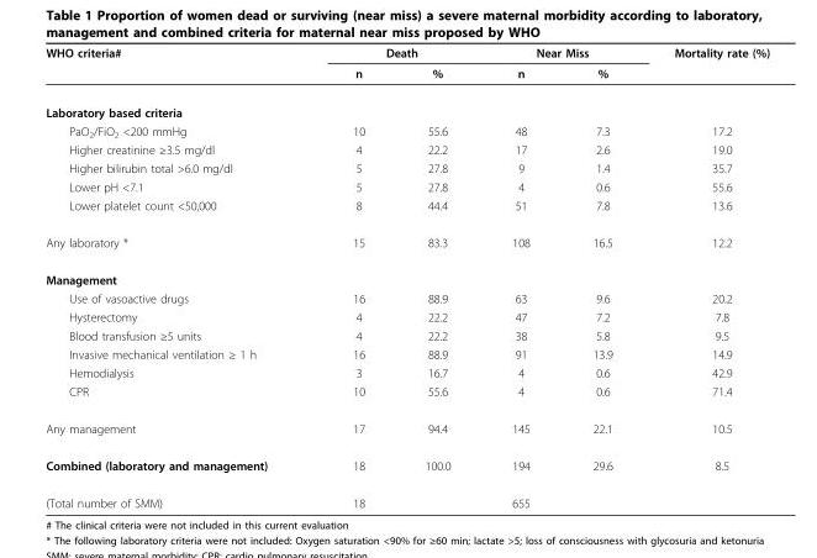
<table><thead><tr><td rowspan="2">WHO criteria#</td><td colspan="2">Death</td><td colspan="2">Near Miss</td><td rowspan="2">Mortality rate (%)</td></tr><tr><td>n</td><td>%</td><td>n</td><td>%</td></tr></thead><tbody><tr><td colspan="6">Laboratory based criteria</td></tr><tr><td>PaO<sub>2</sub>/FiO<sub>2</sub> &lt;200 mmHg</td><td>10</td><td>55.6</td><td>48</td><td>7.3</td><td>17.2</td></tr><tr><td>Higher creatinine ≥3.5 mg/dl</td><td>4</td><td>22.2</td><td>17</td><td>2.6</td><td>19.0</td></tr><tr><td>Higher bilirubin total &gt;6.0 mg/dl</td><td>5</td><td>27.8</td><td>9</td><td>1.4</td><td>35.7</td></tr><tr><td>Lower pH &lt;7.1</td><td>5</td><td>27.8</td><td>4</td><td>0.6</td><td>55.6</td></tr><tr><td>Lower platelet count &lt;50,000</td><td>8</td><td>44.4</td><td>51</td><td>7.8</td><td>13.6</td></tr><tr><td>Any laboratory *</td><td>15</td><td>83.3</td><td>108</td><td>16.5</td><td>12.2</td></tr><tr><td colspan="6">Management</td></tr><tr><td>Use of vasoactive drugs</td><td>16</td><td>88.9</td><td>63</td><td>9.6</td><td>20.2</td></tr><tr><td>Hysterectomy</td><td>4</td><td>22.2</td><td>47</td><td>7.2</td><td>7.8</td></tr><tr><td>Blood transfusion ≥5 units</td><td>4</td><td>22.2</td><td>38</td><td>5.8</td><td>9.5</td></tr><tr><td>Invasive mechanical ventilation ≥ 1 h</td><td>16</td><td>88.9</td><td>91</td><td>13.9</td><td>14.9</td></tr><tr><td>Hemodialysis</td><td>3</td><td>16.7</td><td>4</td><td>0.6</td><td>42.9</td></tr><tr><td>CPR</td><td>10</td><td>55.6</td><td>4</td><td>0.6</td><td>71.4</td></tr><tr><td>Any management</td><td>17</td><td>94.4</td><td>145</td><td>22.1</td><td>10.5</td></tr><tr><td>Combined (laboratory and management)</td><td>18</td><td>100.0</td><td>194</td><td>29.6</td><td>8.5</td></tr><tr><td>(Total number of SMM)</td><td>18</td><td></td><td>655</td><td></td><td></td></tr></tbody></table>